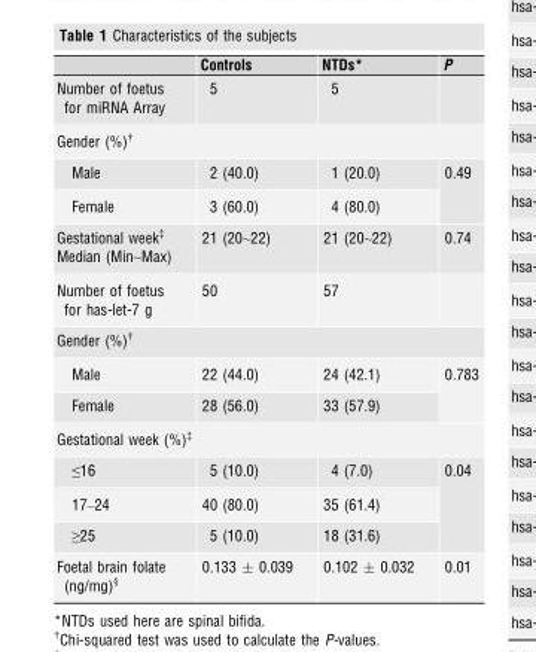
<table><thead><tr><td></td><td>Controls</td><td>NTDs*</td><td>P</td></tr></thead><tbody><tr><td>Number of foetus for miRNA Array</td><td>5</td><td>5</td><td></td></tr><tr><td colspan="4">Gender (%)†</td></tr><tr><td>Male</td><td>2 (40.0)</td><td>1 (20.0)</td><td rowspan="2">0.49</td></tr><tr><td>Female</td><td>3 (60.0)</td><td>4 (80.0)</td></tr><tr><td>Gestational week‡ Median (Min~Max)</td><td>21 (20~22)</td><td>21 (20~22)</td><td>0.74</td></tr><tr><td>Number of foetus for has-let-7 g</td><td>50</td><td>57</td><td></td></tr><tr><td colspan="4">Gender (%)†</td></tr><tr><td>Male</td><td>22 (44.0)</td><td>24 (42.1)</td><td rowspan="2">0.783</td></tr><tr><td>Female</td><td>28 (56.0)</td><td>33 (57.9)</td></tr><tr><td colspan="4">Gestational week (%)‡</td></tr><tr><td>≤16</td><td>5 (10.0)</td><td>4 (7.0)</td><td rowspan="3">0.04</td></tr><tr><td>17–24</td><td>40 (80.0)</td><td>35 (61.4)</td></tr><tr><td>≥25</td><td>5 (10.0)</td><td>18 (31.6)</td></tr><tr><td>Foetal brain folate (ng/mg)§</td><td>0.133 ± 0.039</td><td>0.102 ± 0.032</td><td>0.01</td></tr></tbody></table>